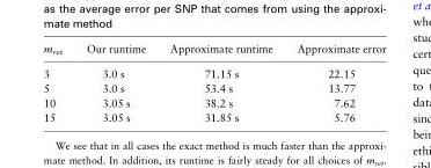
<table><thead><tr><td>m<sub>ret</sub></td><td>Our runtime</td><td>Approximate runtime</td><td>Approximate error</td></tr></thead><tbody><tr><td>3</td><td>3.0 s</td><td>71.15 s</td><td>22.15</td></tr><tr><td>5</td><td>3.0 s</td><td>53.4 s</td><td>13.77</td></tr><tr><td>10</td><td>3.05 s</td><td>38.2 s</td><td>7.62</td></tr><tr><td>15</td><td>3.05 s</td><td>31.85 s</td><td>5.76</td></tr></tbody></table>